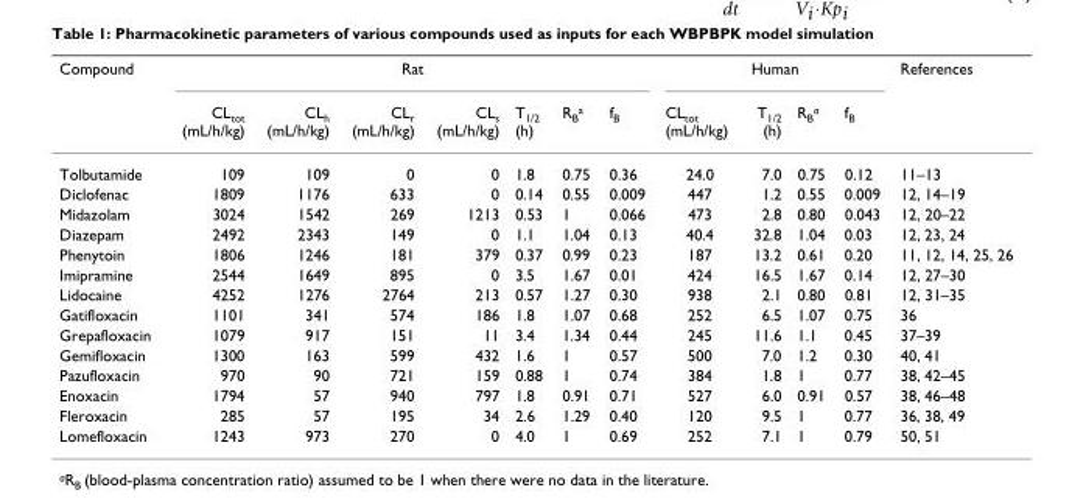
<table><thead><tr><td rowspan="2">Compound</td><td colspan="7">Rat</td><td colspan="4">Human</td><td rowspan="2">References</td></tr><tr><td>CL<sub>tot</sub> (mL/h/kg)</td><td>CL<sub>h</sub> (mL/h/kg)</td><td>CL<sub>r</sub> (mL/h/kg)</td><td>CL<sub>s</sub> (mL/h/kg)</td><td>T<sub>1/2</sub> (h)</td><td>R<sub>B</sub><sup>a</sup></td><td>f<sub>B</sub></td><td>CL<sub>tot</sub> (mL/h/kg)</td><td>T<sub>1/2</sub> (h)</td><td>R<sub>B</sub><sup>a</sup></td><td>f<sub>B</sub></td></tr></thead><tbody><tr><td>Tolbutamide</td><td>109</td><td>109</td><td>0</td><td>0</td><td>1.8</td><td>0.75</td><td>0.36</td><td>24.0</td><td>7.0</td><td>0.75</td><td>0.12</td><td>11–13</td></tr><tr><td>Diclofenac</td><td>1809</td><td>1176</td><td>633</td><td>0</td><td>0.14</td><td>0.55</td><td>0.009</td><td>447</td><td>1.2</td><td>0.55</td><td>0.009</td><td>12, 14–19</td></tr><tr><td>Midazolam</td><td>3024</td><td>1542</td><td>269</td><td>1213</td><td>0.53</td><td>1</td><td>0.066</td><td>473</td><td>2.8</td><td>0.80</td><td>0.043</td><td>12, 20–22</td></tr><tr><td>Diazepam</td><td>2492</td><td>2343</td><td>149</td><td>0</td><td>1.1</td><td>1.04</td><td>0.13</td><td>40.4</td><td>32.8</td><td>1.04</td><td>0.03</td><td>12, 23, 24</td></tr><tr><td>Phenytoin</td><td>1806</td><td>1246</td><td>181</td><td>379</td><td>0.37</td><td>0.99</td><td>0.23</td><td>187</td><td>13.2</td><td>0.61</td><td>0.20</td><td>11, 12, 14, 25, 26</td></tr><tr><td>Imipramine</td><td>2544</td><td>1649</td><td>895</td><td>0</td><td>3.5</td><td>1.67</td><td>0.01</td><td>424</td><td>16.5</td><td>1.67</td><td>0.14</td><td>12, 27–30</td></tr><tr><td>Lidocaine</td><td>4252</td><td>1276</td><td>2764</td><td>213</td><td>0.57</td><td>1.27</td><td>0.30</td><td>938</td><td>2.1</td><td>0.80</td><td>0.81</td><td>12, 31–35</td></tr><tr><td>Gatifloxacin</td><td>1101</td><td>341</td><td>574</td><td>186</td><td>1.8</td><td>1.07</td><td>0.68</td><td>252</td><td>6.5</td><td>1.07</td><td>0.75</td><td>36</td></tr><tr><td>Grepafloxacin</td><td>1079</td><td>917</td><td>151</td><td>11</td><td>3.4</td><td>1.34</td><td>0.44</td><td>245</td><td>11.6</td><td>1.1</td><td>0.45</td><td>37–39</td></tr><tr><td>Gemifloxacin</td><td>1300</td><td>163</td><td>599</td><td>432</td><td>1.6</td><td>1</td><td>0.57</td><td>500</td><td>7.0</td><td>1.2</td><td>0.30</td><td>40, 41</td></tr><tr><td>Pazufloxacin</td><td>970</td><td>90</td><td>721</td><td>159</td><td>0.88</td><td>1</td><td>0.74</td><td>384</td><td>1.8</td><td>1</td><td>0.77</td><td>38, 42–45</td></tr><tr><td>Enoxacin</td><td>1794</td><td>57</td><td>940</td><td>797</td><td>1.8</td><td>0.91</td><td>0.71</td><td>527</td><td>6.0</td><td>0.91</td><td>0.57</td><td>38, 46–48</td></tr><tr><td>Fleroxacin</td><td>285</td><td>57</td><td>195</td><td>34</td><td>2.6</td><td>1.29</td><td>0.40</td><td>120</td><td>9.5</td><td>1</td><td>0.77</td><td>36, 38, 49</td></tr><tr><td>Lomefloxacin</td><td>1243</td><td>973</td><td>270</td><td>0</td><td>4.0</td><td>1</td><td>0.69</td><td>252</td><td>7.1</td><td>1</td><td>0.79</td><td>50, 51</td></tr></tbody></table>